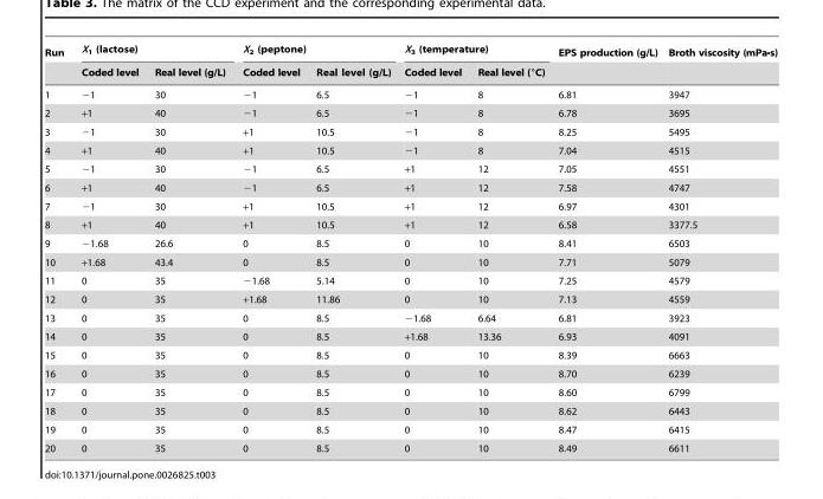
<table><thead><tr><td rowspan="2">Run</td><td colspan="2">X<sub>1</sub> (lactose)</td><td colspan="2">X<sub>2</sub> (peptone)</td><td colspan="2">X<sub>3</sub> (temperature)</td><td rowspan="2">EPS production (g/L)</td><td rowspan="2">Broth viscosity (mPa•s)</td></tr><tr><td>Coded level</td><td>Real level (g/L)</td><td>Coded level</td><td>Real level (g/L)</td><td>Coded level</td><td>Real level (°C)</td></tr></thead><tbody><tr><td>1</td><td>−1</td><td>30</td><td>−1</td><td>6.5</td><td>−1</td><td>8</td><td>6.81</td><td>3947</td></tr><tr><td>2</td><td>+1</td><td>40</td><td>−1</td><td>6.5</td><td>−1</td><td>8</td><td>6.78</td><td>3695</td></tr><tr><td>3</td><td>−1</td><td>30</td><td>+1</td><td>10.5</td><td>−1</td><td>8</td><td>8.25</td><td>5495</td></tr><tr><td>4</td><td>+1</td><td>40</td><td>+1</td><td>10.5</td><td>−1</td><td>8</td><td>7.04</td><td>4515</td></tr><tr><td>5</td><td>−1</td><td>30</td><td>−1</td><td>6.5</td><td>+1</td><td>12</td><td>7.05</td><td>4551</td></tr><tr><td>6</td><td>+1</td><td>40</td><td>−1</td><td>6.5</td><td>+1</td><td>12</td><td>7.58</td><td>4747</td></tr><tr><td>7</td><td>−1</td><td>30</td><td>+1</td><td>10.5</td><td>+1</td><td>12</td><td>6.97</td><td>4301</td></tr><tr><td>8</td><td>+1</td><td>40</td><td>+1</td><td>10.5</td><td>+1</td><td>12</td><td>6.58</td><td>3377.5</td></tr><tr><td>9</td><td>−1.68</td><td>26.6</td><td>0</td><td>8.5</td><td>0</td><td>10</td><td>8.41</td><td>6503</td></tr><tr><td>10</td><td>+1.68</td><td>43.4</td><td>0</td><td>8.5</td><td>0</td><td>10</td><td>7.71</td><td>5079</td></tr><tr><td>11</td><td>0</td><td>35</td><td>−1.68</td><td>5.14</td><td>0</td><td>10</td><td>7.25</td><td>4579</td></tr><tr><td>12</td><td>0</td><td>35</td><td>+1.68</td><td>11.86</td><td>0</td><td>10</td><td>7.13</td><td>4559</td></tr><tr><td>13</td><td>0</td><td>35</td><td>0</td><td>8.5</td><td>−1.68</td><td>6.64</td><td>6.81</td><td>3923</td></tr><tr><td>14</td><td>0</td><td>35</td><td>0</td><td>8.5</td><td>+1.68</td><td>13.36</td><td>6.93</td><td>4091</td></tr><tr><td>15</td><td>0</td><td>35</td><td>0</td><td>8.5</td><td>0</td><td>10</td><td>8.39</td><td>6663</td></tr><tr><td>16</td><td>0</td><td>35</td><td>0</td><td>8.5</td><td>0</td><td>10</td><td>8.70</td><td>6239</td></tr><tr><td>17</td><td>0</td><td>35</td><td>0</td><td>8.5</td><td>0</td><td>10</td><td>8.60</td><td>6799</td></tr><tr><td>18</td><td>0</td><td>35</td><td>0</td><td>8.5</td><td>0</td><td>10</td><td>8.62</td><td>6443</td></tr><tr><td>19</td><td>0</td><td>35</td><td>0</td><td>8.5</td><td>0</td><td>10</td><td>8.47</td><td>6415</td></tr><tr><td>20</td><td>0</td><td>35</td><td>0</td><td>8.5</td><td>0</td><td>10</td><td>8.49</td><td>6611</td></tr></tbody></table>